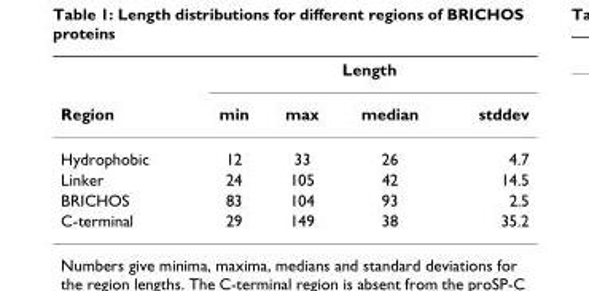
<table><thead><tr><td rowspan="2">Region</td><td colspan="4">Length</td></tr><tr><td>min</td><td>max</td><td>median</td><td>stddev</td></tr></thead><tbody><tr><td>Hydrophobic</td><td>12</td><td>33</td><td>26</td><td>4.7</td></tr><tr><td>Linker</td><td>24</td><td>105</td><td>42</td><td>14.5</td></tr><tr><td>BRICHOS</td><td>83</td><td>104</td><td>93</td><td>2.5</td></tr><tr><td>C-terminal</td><td>29</td><td>149</td><td>38</td><td>35.2</td></tr></tbody></table>